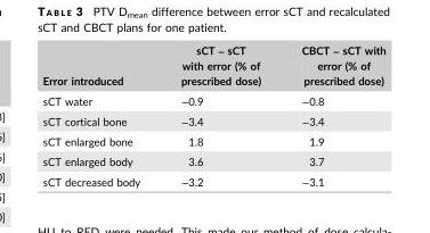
<table><thead><tr><td>Error introduced</td><td>sCT – sCT with error (% of prescribed dose)</td><td>CBCT – sCT with error (% of prescribed dose)</td></tr></thead><tbody><tr><td>sCT water</td><td>−0.9</td><td>−0.8</td></tr><tr><td>sCT cortical bone</td><td>−3.4</td><td>−3.4</td></tr><tr><td>sCT enlarged bone</td><td>1.8</td><td>1.9</td></tr><tr><td>sCT enlarged body</td><td>3.6</td><td>3.7</td></tr><tr><td>sCT decreased body</td><td>−3.2</td><td>−3.1</td></tr></tbody></table>